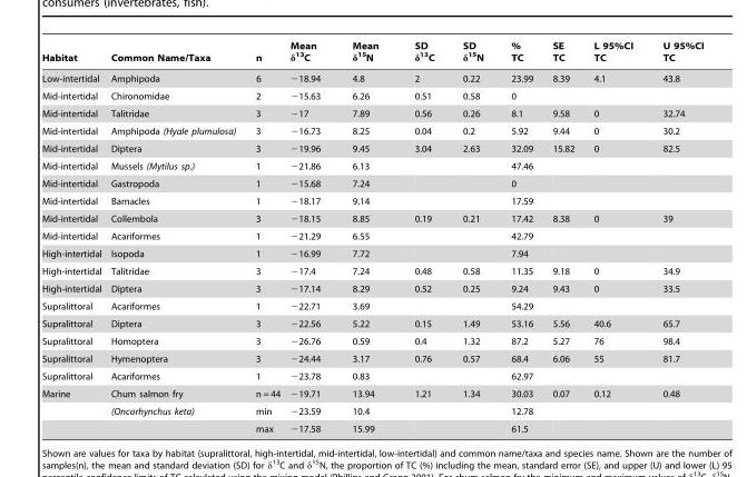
<table><thead><tr><td>Habitat</td><td>Common Name/Taxa</td><td>n</td><td>Mean δ<sup>13</sup>C</td><td>Mean δ<sup>15</sup>N</td><td>SD δ<sup>13</sup>C</td><td>SD δ<sup>15</sup>N</td><td>% TC</td><td>SE TC</td><td>L 95%CI TC</td><td>U 95%CI TC</td></tr></thead><tbody><tr><td>Low-intertidal</td><td>Amphipoda</td><td>6</td><td>−18.94</td><td>4.8</td><td>2</td><td>0.22</td><td>23.99</td><td>8.39</td><td>4.1</td><td>43.8</td></tr><tr><td>Mid-intertidal</td><td>Chironomidae</td><td>2</td><td>−15.63</td><td>6.26</td><td>0.51</td><td>0.58</td><td>0</td><td></td><td></td><td></td></tr><tr><td>Mid-intertidal</td><td>Talitridae</td><td>3</td><td>−17</td><td>7.89</td><td>0.56</td><td>0.26</td><td>8.1</td><td>9.58</td><td>0</td><td>32.74</td></tr><tr><td>Mid-intertidal</td><td>Amphipoda (Hyale plumulosa)</td><td>3</td><td>−16.73</td><td>8.25</td><td>0.04</td><td>0.2</td><td>5.92</td><td>9.44</td><td>0</td><td>30.2</td></tr><tr><td>Mid-intertidal</td><td>Diptera</td><td>3</td><td>−19.96</td><td>9.45</td><td>3.04</td><td>2.63</td><td>32.09</td><td>15.82</td><td>0</td><td>82.5</td></tr><tr><td>Mid-intertidal</td><td>Mussels (Mytilus sp.)</td><td>1</td><td>−21.86</td><td>6.13</td><td></td><td></td><td>47.46</td><td></td><td></td><td></td></tr><tr><td>Mid-intertidal</td><td>Gastropoda</td><td>1</td><td>−15.68</td><td>7.24</td><td></td><td></td><td>0</td><td></td><td></td><td></td></tr><tr><td>Mid-intertidal</td><td>Barnacles</td><td>1</td><td>−18.17</td><td>9.14</td><td></td><td></td><td>17.59</td><td></td><td></td><td></td></tr><tr><td>Mid-intertidal</td><td>Collembola</td><td>3</td><td>−18.15</td><td>8.85</td><td>0.19</td><td>0.21</td><td>17.42</td><td>8.38</td><td>0</td><td>39</td></tr><tr><td>Mid-intertidal</td><td>Acariformes</td><td>1</td><td>−21.29</td><td>6.55</td><td></td><td></td><td>42.79</td><td></td><td></td><td></td></tr><tr><td>High-intertidal</td><td>Isopoda</td><td>1</td><td>−16.99</td><td>7.72</td><td></td><td></td><td>7.94</td><td></td><td></td><td></td></tr><tr><td>High-intertidal</td><td>Talitridae</td><td>3</td><td>−17.4</td><td>7.24</td><td>0.48</td><td>0.58</td><td>11.35</td><td>9.18</td><td>0</td><td>34.9</td></tr><tr><td>High-intertidal</td><td>Diptera</td><td>3</td><td>−17.14</td><td>8.29</td><td>0.52</td><td>0.25</td><td>9.24</td><td>9.43</td><td>0</td><td>33.5</td></tr><tr><td>Supralittoral</td><td>Acariformes</td><td>1</td><td>−22.71</td><td>3.69</td><td></td><td></td><td>54.29</td><td></td><td></td><td></td></tr><tr><td>Supralittoral</td><td>Diptera</td><td>3</td><td>−22.56</td><td>5.22</td><td>0.15</td><td>1.49</td><td>53.16</td><td>5.56</td><td>40.6</td><td>65.7</td></tr><tr><td>Supralittoral</td><td>Homoptera</td><td>3</td><td>−26.76</td><td>0.59</td><td>0.4</td><td>1.32</td><td>87.2</td><td>5.27</td><td>76</td><td>98.4</td></tr><tr><td>Supralittoral</td><td>Hymenoptera</td><td>3</td><td>−24.44</td><td>3.17</td><td>0.76</td><td>0.57</td><td>68.4</td><td>6.06</td><td>55</td><td>81.7</td></tr><tr><td>Supralittoral</td><td>Acariformes</td><td>1</td><td>−23.78</td><td>0.83</td><td></td><td></td><td>62.97</td><td></td><td></td><td></td></tr><tr><td rowspan="3">Marine</td><td>Chum salmon fry</td><td>n = 44</td><td>−19.71</td><td>13.94</td><td>1.21</td><td>1.34</td><td>30.03</td><td>0.07</td><td>0.12</td><td>0.48</td></tr><tr><td>(Oncorhynchus keta)</td><td>min</td><td>−23.59</td><td>10.4</td><td></td><td></td><td>12.78</td><td></td><td></td><td></td></tr><tr><td></td><td>max</td><td>−17.58</td><td>15.99</td><td></td><td></td><td>61.5</td><td></td><td></td><td></td></tr></tbody></table>